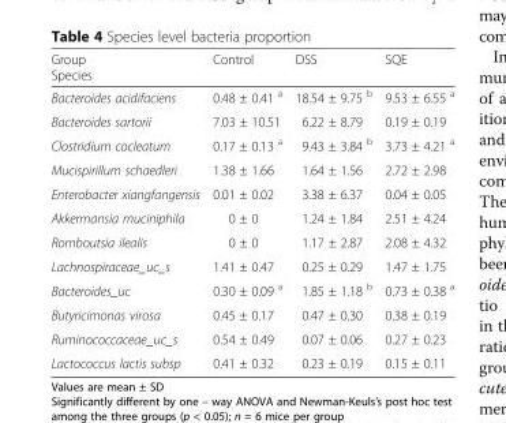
<table><thead><tr><td>Group Species</td><td>Control</td><td>DSS</td><td>SQE</td></tr></thead><tbody><tr><td>Bacteroides acidifaciens</td><td>0.48 ± 0.41 <sup>a</sup></td><td>18.54 ± 9.75 <sup>b</sup></td><td>9.53 ± 6.55 <sup>a</sup></td></tr><tr><td>Bacteroides sartorii</td><td>7.03 ± 10.51</td><td>6.22 ± 8.79</td><td>0.19 ± 0.19</td></tr><tr><td>Clostridium cocleatum</td><td>0.17 ± 0.13 <sup>a</sup></td><td>9.43 ± 3.84 <sup>b</sup></td><td>3.73 ± 4.21 <sup>a</sup></td></tr><tr><td>Mucispirillum schaedleri</td><td>1.38 ± 1.66</td><td>1.64 ± 1.56</td><td>2.72 ± 2.98</td></tr><tr><td>Enterobacter xiangfangensis</td><td>0.01 ± 0.02</td><td>3.38 ± 6.37</td><td>0.04 ± 0.05</td></tr><tr><td>Akkermansia muciniphila</td><td>0 ± 0</td><td>1.24 ± 1.84</td><td>2.51 ± 4.24</td></tr><tr><td>Romboutsia ilealis</td><td>0 ± 0</td><td>1.17 ± 2.87</td><td>2.08 ± 4.32</td></tr><tr><td>Lachnospiraceae_uc_s</td><td>1.41 ± 0.47</td><td>0.25 ± 0.29</td><td>1.47 ± 1.75</td></tr><tr><td>Bacteroides_uc</td><td>0.30 ± 0.09 <sup>a</sup></td><td>1.85 ± 1.18 <sup>b</sup></td><td>0.73 ± 0.38 <sup>a</sup></td></tr><tr><td>Butyricimonas virosa</td><td>0.45 ± 0.17</td><td>0.47 ± 0.30</td><td>0.38 ± 0.19</td></tr><tr><td>Ruminococcaceae_uc_s</td><td>0.54 ± 0.49</td><td>0.07 ± 0.06</td><td>0.27 ± 0.23</td></tr><tr><td>Lactococcus lactis subsp</td><td>0.41 ± 0.32</td><td>0.23 ± 0.19</td><td>0.15 ± 0.11</td></tr></tbody></table>